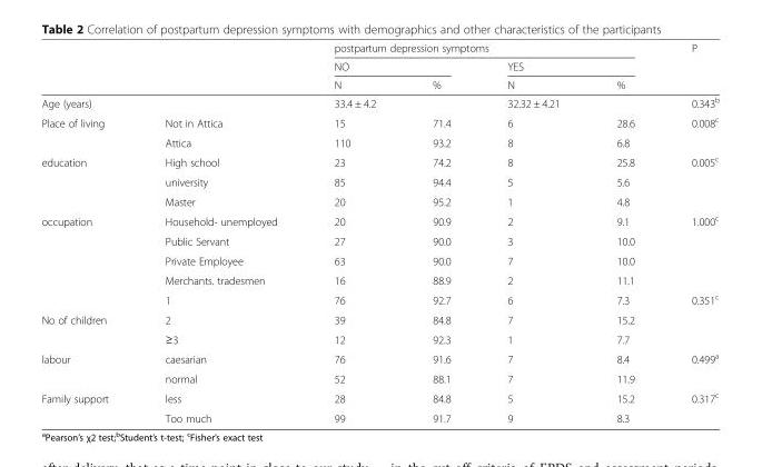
<table><thead><tr><td rowspan="3"></td><td rowspan="3"></td><td colspan="4">postpartum depression symptoms</td><td rowspan="3">P</td></tr><tr><td colspan="2">NO</td><td colspan="2">YES</td></tr><tr><td>N</td><td>%</td><td>N</td><td>%</td></tr></thead><tbody><tr><td>Age (years)</td><td></td><td>33.4 ± 4.2</td><td></td><td>32.32 ± 4.21</td><td></td><td>0.343<sup>b</sup></td></tr><tr><td rowspan="2">Place of living</td><td>Not in Attica</td><td>15</td><td>71.4</td><td>6</td><td>28.6</td><td>0.008<sup>c</sup></td></tr><tr><td>Attica</td><td>110</td><td>93.2</td><td>8</td><td>6.8</td><td></td></tr><tr><td rowspan="3">education</td><td>High school</td><td>23</td><td>74.2</td><td>8</td><td>25.8</td><td>0.005<sup>c</sup></td></tr><tr><td>university</td><td>85</td><td>94.4</td><td>5</td><td>5.6</td><td></td></tr><tr><td>Master</td><td>20</td><td>95.2</td><td>1</td><td>4.8</td><td></td></tr><tr><td rowspan="5">occupation</td><td>Household- unemployed</td><td>20</td><td>90.9</td><td>2</td><td>9.1</td><td>1.000<sup>c</sup></td></tr><tr><td>Public Servant</td><td>27</td><td>90.0</td><td>3</td><td>10.0</td><td></td></tr><tr><td>Private Employee</td><td>63</td><td>90.0</td><td>7</td><td>10.0</td><td></td></tr><tr><td>Merchants. tradesmen</td><td>16</td><td>88.9</td><td>2</td><td>11.1</td><td></td></tr><tr><td>1</td><td>76</td><td>92.7</td><td>6</td><td>7.3</td><td>0.351<sup>c</sup></td></tr><tr><td rowspan="2">No of children</td><td>2</td><td>39</td><td>84.8</td><td>7</td><td>15.2</td><td></td></tr><tr><td>≥3</td><td>12</td><td>92.3</td><td>1</td><td>7.7</td><td></td></tr><tr><td rowspan="2">labour</td><td>caesarian</td><td>76</td><td>91.6</td><td>7</td><td>8.4</td><td>0.499<sup>a</sup></td></tr><tr><td>normal</td><td>52</td><td>88.1</td><td>7</td><td>11.9</td><td></td></tr><tr><td rowspan="2">Family support</td><td>less</td><td>28</td><td>84.8</td><td>5</td><td>15.2</td><td>0.317<sup>c</sup></td></tr><tr><td>Too much</td><td>99</td><td>91.7</td><td>9</td><td>8.3</td><td></td></tr></tbody></table>